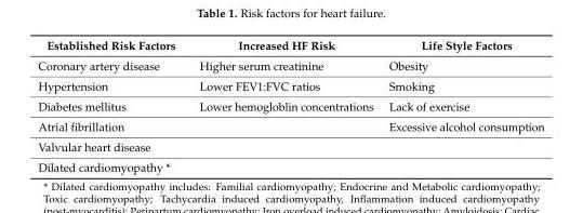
<table><thead><tr><td>Established Risk Factors</td><td>Increased HF Risk</td><td>Life Style Factors</td></tr></thead><tbody><tr><td>Coronary artery disease</td><td>Higher serum creatinine</td><td>Obesity</td></tr><tr><td>Hypertension</td><td>Lower FEV1:FVC ratios</td><td>Smoking</td></tr><tr><td>Diabetes mellitus</td><td>Lower hemogloblin concentrations</td><td>Lack of exercise</td></tr><tr><td>Atrial fibrillation</td><td></td><td>Excessive alcohol consumption</td></tr><tr><td colspan="3">Valvular heart disease</td></tr><tr><td>Dilated cardiomyopathy *</td><td></td><td></td></tr></tbody></table>